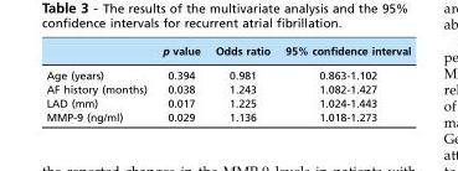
<table><thead><tr><td></td><td>p value</td><td>Odds ratio</td><td>95% confidence interval</td></tr></thead><tbody><tr><td>Age (years)</td><td>0.394</td><td>0.981</td><td>0.863-1.102</td></tr><tr><td>AF history (months)</td><td>0.038</td><td>1.243</td><td>1.082-1.427</td></tr><tr><td>LAD (mm)</td><td>0.017</td><td>1.225</td><td>1.024-1.443</td></tr><tr><td>MMP-9 (ng/ml)</td><td>0.029</td><td>1.136</td><td>1.018-1.273</td></tr></tbody></table>